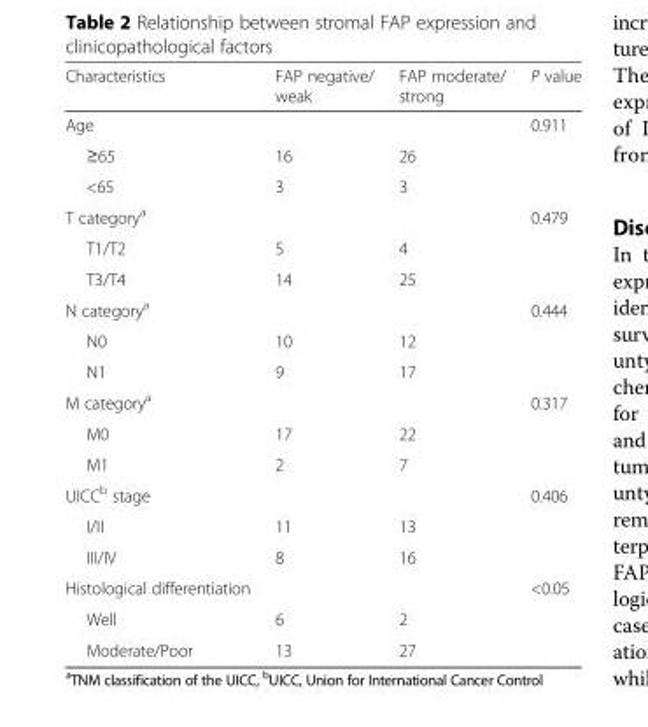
<table><thead><tr><td>Characteristics</td><td>FAP negative/ weak</td><td>FAP moderate/ strong</td><td>P value</td></tr></thead><tbody><tr><td colspan="3">Age</td><td rowspan="3">0.911</td></tr><tr><td>≥65</td><td>16</td><td>26</td></tr><tr><td>&lt;65</td><td>3</td><td>3</td></tr><tr><td colspan="3">T category<sup>a</sup></td><td rowspan="3">0.479</td></tr><tr><td>T1/T2</td><td>5</td><td>4</td></tr><tr><td>T3/T4</td><td>14</td><td>25</td></tr><tr><td colspan="3">N category<sup>a</sup></td><td rowspan="3">0.444</td></tr><tr><td>N0</td><td>10</td><td>12</td></tr><tr><td>N1</td><td>9</td><td>17</td></tr><tr><td colspan="3">M category<sup>a</sup></td><td rowspan="3">0.317</td></tr><tr><td>M0</td><td>17</td><td>22</td></tr><tr><td>M1</td><td>2</td><td>7</td></tr><tr><td colspan="3">UICC<sup>b</sup> stage</td><td rowspan="3">0.406</td></tr><tr><td>I/II</td><td>11</td><td>13</td></tr><tr><td>III/IV</td><td>8</td><td>16</td></tr><tr><td colspan="3">Histological differentiation</td><td rowspan="3">&lt;0.05</td></tr><tr><td>Well</td><td>6</td><td>2</td></tr><tr><td>Moderate/Poor</td><td>13</td><td>27</td></tr></tbody></table>